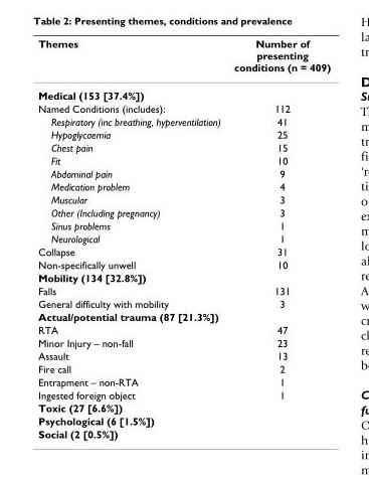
<table><thead><tr><td>Themes</td><td>Number of presenting conditions (n = 409)</td></tr></thead><tbody><tr><td colspan="2">Medical (153 [37.4%])</td></tr><tr><td>Named Conditions (includes):</td><td>112</td></tr><tr><td>Respiratory (inc breathing, hyperventilation)</td><td>41</td></tr><tr><td>Hypoglycaemia</td><td>25</td></tr><tr><td>Chest pain</td><td>15</td></tr><tr><td>Fit</td><td>10</td></tr><tr><td>Abdominal pain</td><td>9</td></tr><tr><td>Medication problem</td><td>4</td></tr><tr><td>Muscular</td><td>3</td></tr><tr><td>Other (Including pregnancy)</td><td>3</td></tr><tr><td>Sinus problems</td><td>1</td></tr><tr><td>Neurological</td><td>1</td></tr><tr><td>Collapse</td><td>31</td></tr><tr><td>Non-specifically unwell</td><td>10</td></tr><tr><td colspan="2">Mobility (134 [32.8%])</td></tr><tr><td>Falls</td><td>131</td></tr><tr><td>General difficulty with mobility</td><td>3</td></tr><tr><td colspan="2">Actual/potential trauma (87 [21.3%])</td></tr><tr><td>RTA</td><td>47</td></tr><tr><td>Minor Injury – non-fall</td><td>23</td></tr><tr><td>Assault</td><td>13</td></tr><tr><td>Fire call</td><td>2</td></tr><tr><td>Entrapment – non-RTA</td><td>1</td></tr><tr><td>Ingested foreign object</td><td>1</td></tr><tr><td colspan="2">Toxic (27 [6.6%])</td></tr><tr><td colspan="2">Psychological (6 [1.5%])</td></tr><tr><td>Social (2 [0.5%])</td><td></td></tr></tbody></table>